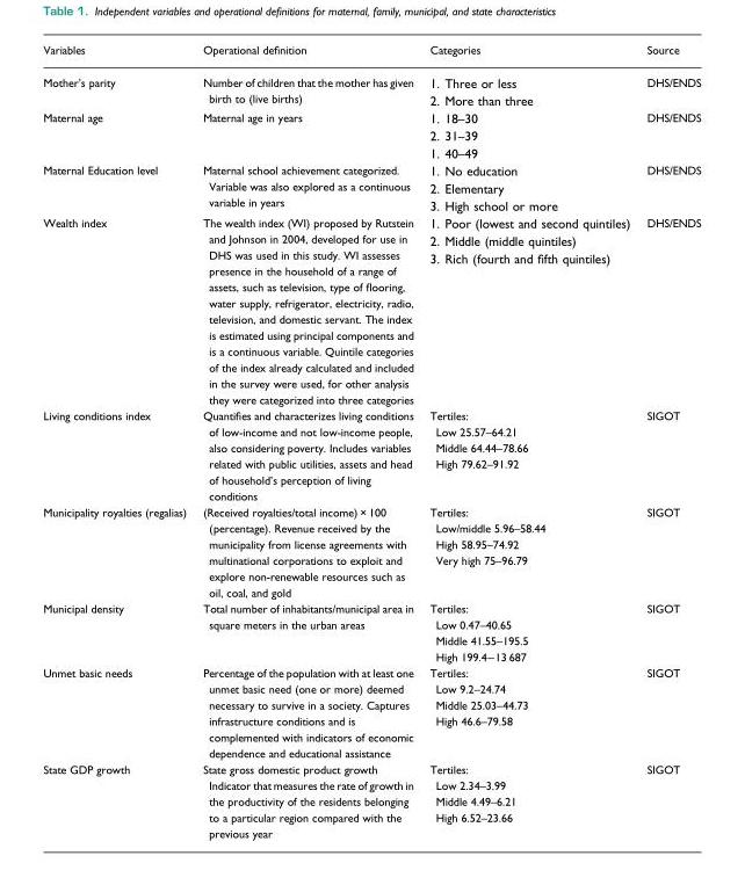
<table><thead><tr><td>Variables</td><td>Operational definition</td><td>Categories</td><td>Source</td></tr></thead><tbody><tr><td>Mother’s parity</td><td>Number of children that the mother has given birth to (live births)</td><td>1. Three or less 2. More than three</td><td>DHS/ENDS</td></tr><tr><td>Maternal age</td><td>Maternal age in years</td><td>1. 18–30 2. 31–39 1. 40–49</td><td>DHS/ENDS</td></tr><tr><td>Maternal Education level</td><td>Maternal school achievement categorized. Variable was also explored as a continuous variable in years</td><td>1. No education 2. Elementary 3. High school or more</td><td>DHS/ENDS</td></tr><tr><td>Wealth index</td><td>The wealth index (WI) proposed by Rutstein and Johnson in 2004, developed for use in DHS was used in this study. WI assesses presence in the household of a range of assets, such as television, type of flooring, water supply, refrigerator, electricity, radio, television, and domestic servant. The index is estimated using principal components and is a continuous variable. Quintile categories of the index already calculated and included in the survey were used, for other analysis they were categorized into three categories</td><td>1. Poor (lowest and second quintiles) 2. Middle (middle quintiles) 3. Rich (fourth and fifth quintiles)</td><td>DHS/ENDS</td></tr><tr><td>Living conditions index</td><td>Quantifies and characterizes living conditions of low-income and not low-income people, also considering poverty. Includes variables related with public utilities, assets and head of household’s perception of living conditions</td><td>Tertiles: Low 25.57–64.21 Middle 64.44–78.66 High 79.62–91.92</td><td>SIGOT</td></tr><tr><td>Municipality royalties (regalias)</td><td>(Received royalties/total income) × 100 (percentage). Revenue received by the municipality from license agreements with multinational corporations to exploit and explore non-renewable resources such as oil, coal, and gold</td><td>Tertiles: Low/middle 5.96–58.44 High 58.95–74.92 Very high 75–96.79</td><td>SIGOT</td></tr><tr><td>Municipal density</td><td>Total number of inhabitants/municipal area in square meters in the urban areas</td><td>Tertiles: Low 0.47–40.65 Middle 41.55–195.5 High 199.4−13 687</td><td>SIGOT</td></tr><tr><td>Unmet basic needs</td><td>Percentage of the population with at least one unmet basic need (one or more) deemed necessary to survive in a society. Captures infrastructure conditions and is complemented with indicators of economic dependence and educational assistance</td><td>Tertiles: Low 9.2–24.74 Middle 25.03–44.73 High 46.6–79.58</td><td>SIGOT</td></tr><tr><td>State GDP growth</td><td>State gross domestic product growth Indicator that measures the rate of growth in the productivity of the residents belonging to a particular region compared with the previous year</td><td>Tertiles: Low 2.34–3.99 Middle 4.49–6.21 High 6.52–23.66</td><td>SIGOT</td></tr></tbody></table>